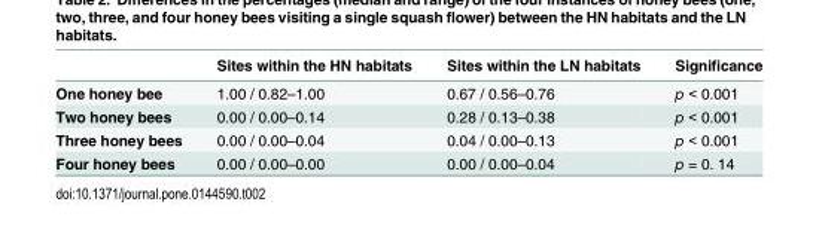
<table><thead><tr><td></td><td>Sites within the HN habitats</td><td>Sites within the LN habitats</td><td>Significance</td></tr></thead><tbody><tr><td>One honey bee</td><td>1.00 / 0.82–1.00</td><td>0.67 / 0.56–0.76</td><td>p &lt; 0.001</td></tr><tr><td>Two honey bees</td><td>0.00 / 0.00–0.14</td><td>0.28 / 0.13–0.38</td><td>p &lt; 0.001</td></tr><tr><td>Three honey bees</td><td>0.00 / 0.00–0.04</td><td>0.04 / 0.00–0.13</td><td>p &lt; 0.001</td></tr><tr><td>Four honey bees</td><td>0.00 / 0.00–0.00</td><td>0.00 / 0.00–0.04</td><td>p = 0. 14</td></tr></tbody></table>